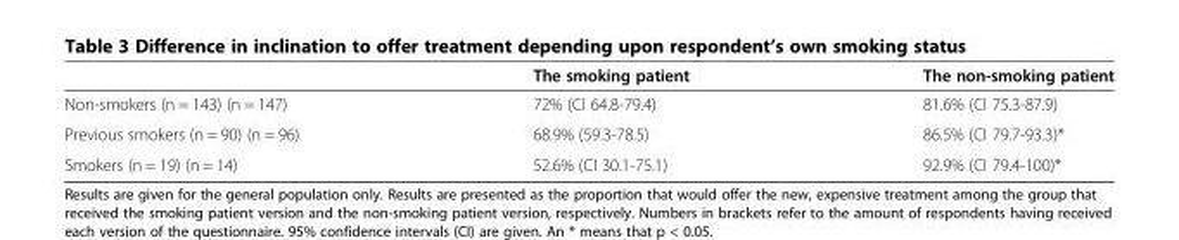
<table><thead><tr><td></td><td>The smoking patient</td><td>The non-smoking patient</td></tr></thead><tbody><tr><td>Non-smokers (n = 143) (n = 147)</td><td>72% (CI 64.8-79.4)</td><td>81.6% (CI 75.3-87.9)</td></tr><tr><td>Previous smokers (n = 90) (n = 96)</td><td>68.9% (59.3-78.5)</td><td>86.5% (CI 79.7-93.3)*</td></tr><tr><td>Smokers (n = 19) (n = 14)</td><td>52.6% (CI 30.1-75.1)</td><td>92.9% (CI 79.4-100)*</td></tr></tbody></table>